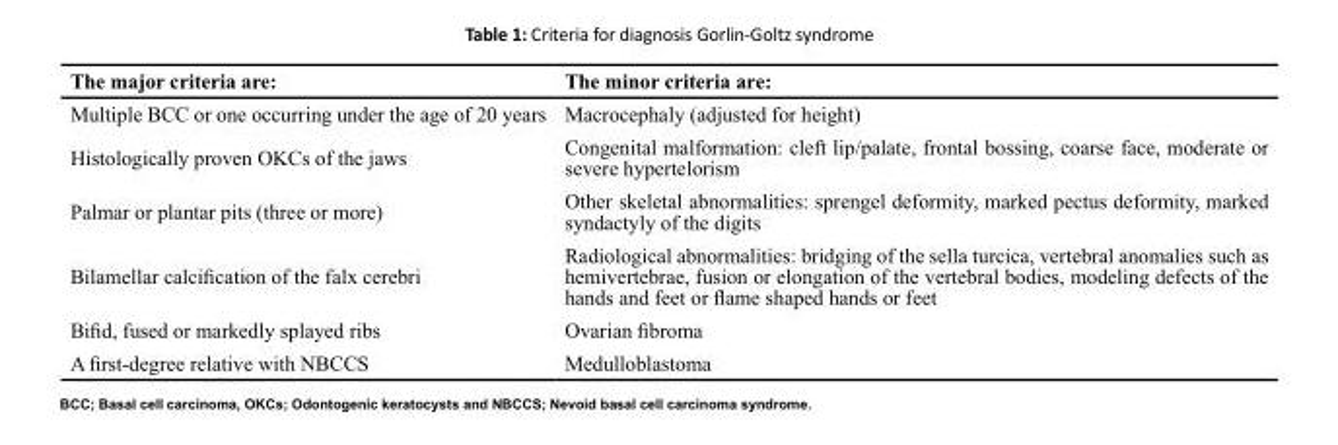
<table><thead><tr><td>The major criteria are:</td><td>The minor criteria are:</td></tr></thead><tbody><tr><td>Multiple BCC or one occurring under the age of 20 years</td><td>Macrocephaly (adjusted for height)</td></tr><tr><td>Histologically proven OKCs of the jaws</td><td>Congenital malformation: cleft lip/palate, frontal bossing, coarse face, moderate or severe hypertelorism</td></tr><tr><td>Palmar or plantar pits (three or more)</td><td>Other skeletal abnormalities: sprengel deformity, marked pectus deformity, marked syndactyly of the digits</td></tr><tr><td>Bilamellar calcification of the falx cerebri</td><td>Radiological abnormalities: bridging of the sella turcica, vertebral anomalies such as hemivertebrae, fusion or elongation of the vertebral bodies, modeling defects of the hands and feet or flame shaped hands or feet</td></tr><tr><td>Bifid, fused or markedly splayed ribs</td><td>Ovarian fibroma</td></tr><tr><td>A first-degree relative with NBCCS</td><td>Medulloblastoma</td></tr></tbody></table>